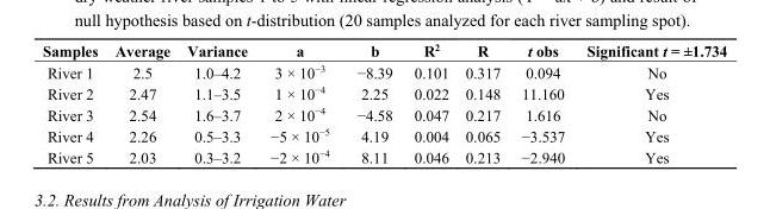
<table><thead><tr><td>Samples</td><td>Average</td><td>Variance</td><td>a</td><td>b</td><td>R<sup>2</sup></td><td>R</td><td>t obs</td><td>Significant t = ±1.734</td></tr></thead><tbody><tr><td>River 1</td><td>2.5</td><td>1.0–4.2</td><td>3 × 10<sup>−3</sup></td><td>−8.39</td><td>0.101</td><td>0.317</td><td>0.094</td><td>No</td></tr><tr><td>River 2</td><td>2.47</td><td>1.1–3.5</td><td>1 × 10<sup>−4</sup></td><td>2.25</td><td>0.022</td><td>0.148</td><td>11.160</td><td>Yes</td></tr><tr><td>River 3</td><td>2.54</td><td>1.6–3.7</td><td>2 × 10<sup>−4</sup></td><td>−4.58</td><td>0.047</td><td>0.217</td><td>1.616</td><td>No</td></tr><tr><td>River 4</td><td>2.26</td><td>0.5–3.3</td><td>−5 × 10<sup>−5</sup></td><td>4.19</td><td>0.004</td><td>0.065</td><td>−3.537</td><td>Yes</td></tr><tr><td>River 5</td><td>2.03</td><td>0.3–3.2</td><td>−2 × 10<sup>−4</sup></td><td>8.11</td><td>0.046</td><td>0.213</td><td>−2.940</td><td>Yes</td></tr></tbody></table>